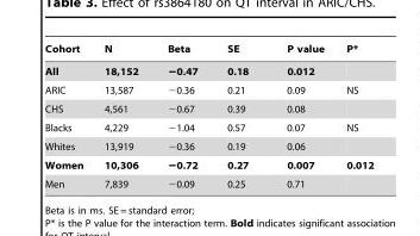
<table><thead><tr><td>Cohort</td><td>N</td><td>Beta</td><td>SE</td><td>P value</td><td>P*</td></tr></thead><tbody><tr><td>All</td><td>18,152</td><td>−0.47</td><td>0.18</td><td>0.012</td><td></td></tr><tr><td>ARIC</td><td>13,587</td><td>−0.36</td><td>0.21</td><td>0.09</td><td>NS</td></tr><tr><td>CHS</td><td>4,561</td><td>−0.67</td><td>0.39</td><td>0.08</td><td></td></tr><tr><td>Blacks</td><td>4,229</td><td>−1.04</td><td>0.57</td><td>0.07</td><td>NS</td></tr><tr><td>Whites</td><td>13,919</td><td>−0.36</td><td>0.19</td><td>0.06</td><td></td></tr><tr><td>Women</td><td>10,306</td><td>−0.72</td><td>0.27</td><td>0.007</td><td>0.012</td></tr><tr><td>Men</td><td>7,839</td><td>−0.09</td><td>0.25</td><td>0.71</td><td></td></tr></tbody></table>